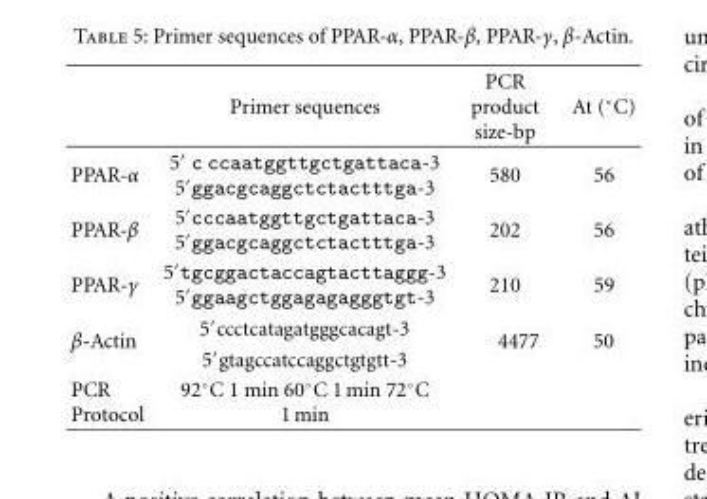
<table><thead><tr><td></td><td>Primer sequences</td><td>PCR product size-bp</td><td>At (◦C)</td></tr></thead><tbody><tr><td>PPAR-α</td><td>5′ c ccaatggttgctgattaca-3 5′ggacgcaggctctactttga-3</td><td>580</td><td>56</td></tr><tr><td>PPAR-β</td><td>5′cccaatggttgctgattaca-3 5′ggacgcaggctctactttga-3</td><td>202</td><td>56</td></tr><tr><td>PPAR-γ</td><td>5′tgcggactaccagtacttaggg-3 5′ggaagctggagagagggtgt-3</td><td>210</td><td>59</td></tr><tr><td rowspan="2">β-Actin</td><td>5′ccctcatagatgggcacagt-3</td><td rowspan="2">4477</td><td rowspan="2">50</td></tr><tr><td>5′gtagccatccaggctgtgtt-3</td></tr><tr><td>PCR Protocol</td><td>92◦C 1 min 60◦C 1 min 72◦C 1 min</td><td></td><td></td></tr></tbody></table>